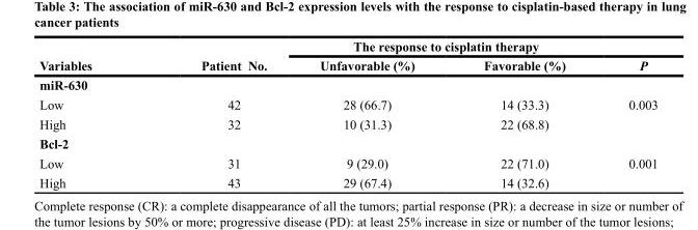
<table><thead><tr><td rowspan="2">Variables</td><td rowspan="2">Patient No.</td><td colspan="2">The response to cisplatin therapy</td><td rowspan="2">P</td></tr><tr><td>Unfavorable (%)</td><td>Favorable (%)</td></tr></thead><tbody><tr><td colspan="5">miR-630</td></tr><tr><td>Low</td><td>42</td><td>28 (66.7)</td><td>14 (33.3)</td><td>0.003</td></tr><tr><td>High</td><td>32</td><td>10 (31.3)</td><td>22 (68.8)</td><td></td></tr><tr><td colspan="5">Bcl-2</td></tr><tr><td>Low</td><td>31</td><td>9 (29.0)</td><td>22 (71.0)</td><td>0.001</td></tr><tr><td>High</td><td>43</td><td>29 (67.4)</td><td>14 (32.6)</td><td></td></tr></tbody></table>